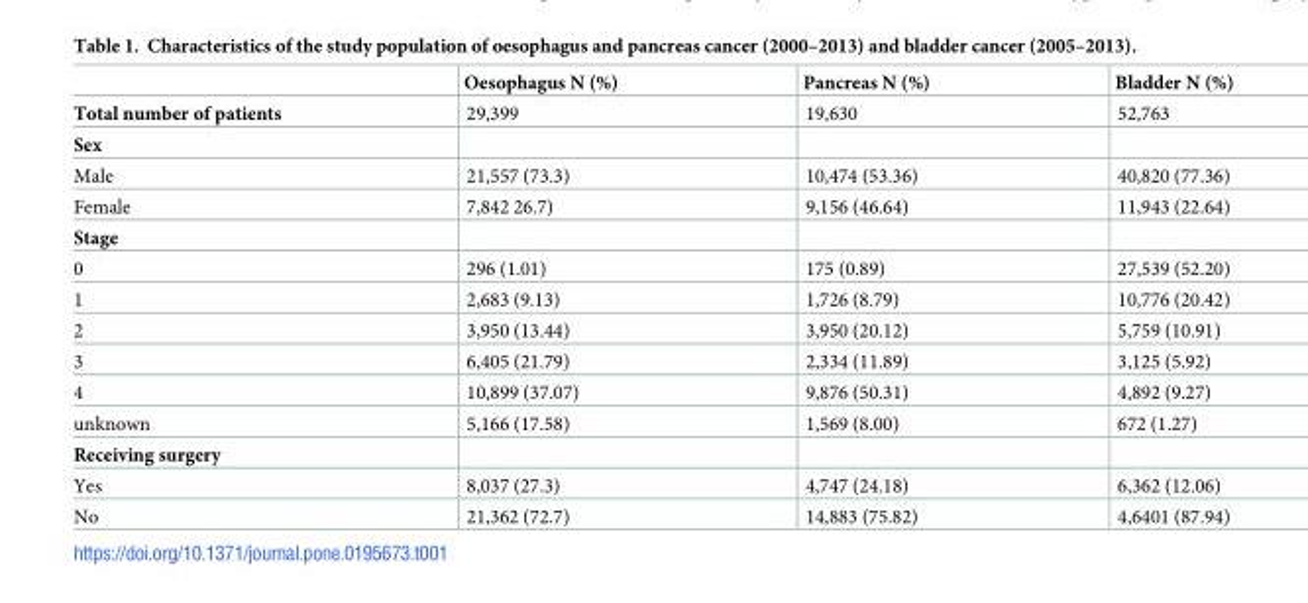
<table><thead><tr><td></td><td>Oesophagus N (%)</td><td>Pancreas N (%)</td><td>Bladder N (%)</td></tr></thead><tbody><tr><td>Total number of patients</td><td>29,399</td><td>19,630</td><td>52,763</td></tr><tr><td colspan="4">Sex</td></tr><tr><td>Male</td><td>21,557 (73.3)</td><td>10,474 (53.36)</td><td>40,820 (77.36)</td></tr><tr><td>Female</td><td>7,842 26.7)</td><td>9,156 (46.64)</td><td>11,943 (22.64)</td></tr><tr><td colspan="4">Stage</td></tr><tr><td>0</td><td>296 (1.01)</td><td>175 (0.89)</td><td>27,539 (52.20)</td></tr><tr><td>1</td><td>2,683 (9.13)</td><td>1,726 (8.79)</td><td>10,776 (20.42)</td></tr><tr><td>2</td><td>3,950 (13.44)</td><td>3,950 (20.12)</td><td>5,759 (10.91)</td></tr><tr><td>3</td><td>6,405 (21.79)</td><td>2,334 (11.89)</td><td>3,125 (5.92)</td></tr><tr><td>4</td><td>10,899 (37.07)</td><td>9,876 (50.31)</td><td>4,892 (9.27)</td></tr><tr><td>unknown</td><td>5,166 (17.58)</td><td>1,569 (8.00)</td><td>672 (1.27)</td></tr><tr><td colspan="4">Receiving surgery</td></tr><tr><td>Yes</td><td>8,037 (27.3)</td><td>4,747 (24.18)</td><td>6,362 (12.06)</td></tr><tr><td>No</td><td>21,362 (72.7)</td><td>14,883 (75.82)</td><td>4,6401 (87.94)</td></tr></tbody></table>